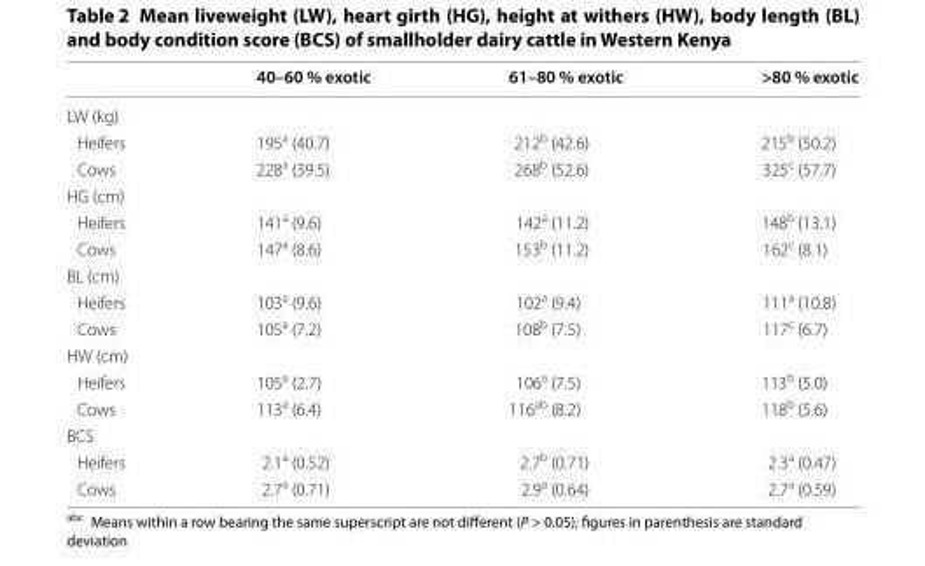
<table><thead><tr><td></td><td>40–60 % exotic</td><td>61–80 % exotic</td><td>&gt;80 % exotic</td></tr></thead><tbody><tr><td colspan="4">LW (kg)</td></tr><tr><td>Heifers</td><td>195<sup>a</sup> (40.7)</td><td>212<sup>b</sup> (42.6)</td><td>215<sup>b</sup> (50.2)</td></tr><tr><td>Cows</td><td>228<sup>a</sup> (39.5)</td><td>268<sup>b</sup> (52.6)</td><td>325<sup>c</sup> (57.7)</td></tr><tr><td colspan="4">HG (cm)</td></tr><tr><td>Heifers</td><td>141<sup>a</sup> (9.6)</td><td>142<sup>a</sup> (11.2)</td><td>148<sup>b</sup> (13.1)</td></tr><tr><td>Cows</td><td>147<sup>a</sup> (8.6)</td><td>153<sup>b</sup> (11.2)</td><td>162<sup>c</sup> (8.1)</td></tr><tr><td colspan="4">BL (cm)</td></tr><tr><td>Heifers</td><td>103<sup>a</sup> (9.6)</td><td>102<sup>a</sup> (9.4)</td><td>111<sup>a</sup> (10.8)</td></tr><tr><td>Cows</td><td>105<sup>a</sup> (7.2)</td><td>108<sup>b</sup> (7.5)</td><td>117<sup>c</sup> (6.7)</td></tr><tr><td colspan="4">HW (cm)</td></tr><tr><td>Heifers</td><td>105<sup>a</sup> (2.7)</td><td>106<sup>a</sup> (7.5)</td><td>113<sup>b</sup> (5.0)</td></tr><tr><td>Cows</td><td>113<sup>a</sup> (6.4)</td><td>116<sup>ab</sup> (8.2)</td><td>118<sup>b</sup> (5.6)</td></tr><tr><td colspan="4">BCS</td></tr><tr><td>Heifers</td><td>2.1<sup>a</sup> (0.52)</td><td>2.7<sup>b</sup> (0.71)</td><td>2.3<sup>a</sup> (0.47)</td></tr><tr><td>Cows</td><td>2.7<sup>a</sup> (0.71)</td><td>2.9<sup>a</sup> (0.64)</td><td>2.7<sup>a</sup> (0.59)</td></tr></tbody></table>